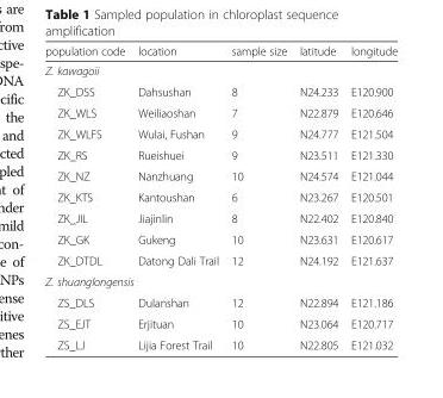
<table><thead><tr><td>population code</td><td>location</td><td>sample size</td><td>latitude</td><td>longitude</td></tr></thead><tbody><tr><td colspan="5">Z. kawagoii</td></tr><tr><td>ZK_DSS</td><td>Dahsushan</td><td>8</td><td>N24.233</td><td>E120.900</td></tr><tr><td>ZK_WLS</td><td>Weiliaoshan</td><td>7</td><td>N22.879</td><td>E120.646</td></tr><tr><td>ZK_WLFS</td><td>Wulai, Fushan</td><td>9</td><td>N24.777</td><td>E121.504</td></tr><tr><td>ZK_RS</td><td>Rueishuei</td><td>9</td><td>N23.511</td><td>E121.330</td></tr><tr><td>ZK_NZ</td><td>Nanzhuang</td><td>10</td><td>N24.574</td><td>E121.044</td></tr><tr><td>ZK_KTS</td><td>Kantoushan</td><td>6</td><td>N23.267</td><td>E120.501</td></tr><tr><td>ZK_JIL</td><td>Jiajinlin</td><td>8</td><td>N22.402</td><td>E120.840</td></tr><tr><td>ZK_GK</td><td>Gukeng</td><td>10</td><td>N23.631</td><td>E120.617</td></tr><tr><td>ZK_DTDL</td><td>Datong Dali Trail</td><td>12</td><td>N24.192</td><td>E121.637</td></tr><tr><td colspan="5">Z. shuanglongensis</td></tr><tr><td>ZS_DLS</td><td>Dulanshan</td><td>12</td><td>N22.894</td><td>E121.186</td></tr><tr><td>ZS_EJT</td><td>Erjituan</td><td>10</td><td>N23.064</td><td>E120.717</td></tr><tr><td>ZS_LJ</td><td>Lijia Forest Trail</td><td>10</td><td>N22.805</td><td>E121.032</td></tr></tbody></table>